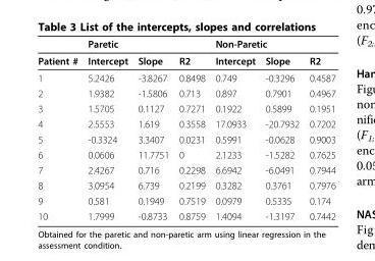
<table><thead><tr><td rowspan="2">Patient #</td><td colspan="3">Paretic</td><td colspan="3">Non-Paretic</td></tr><tr><td>Intercept</td><td>Slope</td><td>R2</td><td>Intercept</td><td>Slope</td><td>R2</td></tr></thead><tbody><tr><td>1</td><td>5.2426</td><td>-3.8267</td><td>0.8498</td><td>0.749</td><td>-0.3296</td><td>0.4587</td></tr><tr><td>2</td><td>1.9382</td><td>-1.5806</td><td>0.713</td><td>0.897</td><td>0.7901</td><td>0.4967</td></tr><tr><td>3</td><td>1.5705</td><td>0.1127</td><td>0.7271</td><td>0.1922</td><td>0.5899</td><td>0.1951</td></tr><tr><td>4</td><td>2.5553</td><td>1.619</td><td>0.3558</td><td>17.0933</td><td>-20.7932</td><td>0.7202</td></tr><tr><td>5</td><td>-0.3324</td><td>3.3407</td><td>0.0231</td><td>0.5991</td><td>-0.0628</td><td>0.9003</td></tr><tr><td>6</td><td>0.0606</td><td>11.7751</td><td>0</td><td>2.1233</td><td>-1.5282</td><td>0.7625</td></tr><tr><td>7</td><td>2.4267</td><td>0.716</td><td>0.2298</td><td>6.6942</td><td>-6.0491</td><td>0.7944</td></tr><tr><td>8</td><td>3.0954</td><td>6.739</td><td>0.2199</td><td>0.3282</td><td>0.3761</td><td>0.7976</td></tr><tr><td>9</td><td>0.581</td><td>0.1949</td><td>0.7519</td><td>0.0979</td><td>0.5335</td><td>0.174</td></tr><tr><td>10</td><td>1.7999</td><td>-0.8733</td><td>0.8759</td><td>1.4094</td><td>-1.3197</td><td>0.7442</td></tr></tbody></table>